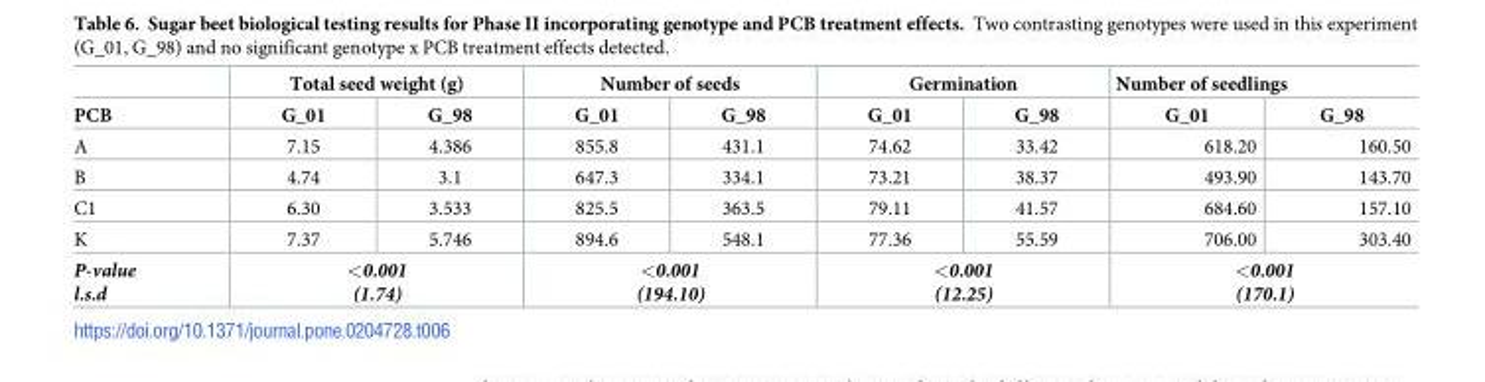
<table><thead><tr><td rowspan="2">PCB</td><td colspan="2">Total seed weight (g)</td><td colspan="2">Number of seeds</td><td colspan="2">Germination</td><td colspan="2">Number of seedlings</td></tr><tr><td>G_01</td><td>G_98</td><td>G_01</td><td>G_98</td><td>G_01</td><td>G_98</td><td>G_01</td><td>G_98</td></tr></thead><tbody><tr><td>A</td><td>7.15</td><td>4.386</td><td>855.8</td><td>431.1</td><td>74.62</td><td>33.42</td><td>618.20</td><td>160.50</td></tr><tr><td>B</td><td>4.74</td><td>3.1</td><td>647.3</td><td>334.1</td><td>73.21</td><td>38.37</td><td>493.90</td><td>143.70</td></tr><tr><td>C1</td><td>6.30</td><td>3.533</td><td>825.5</td><td>363.5</td><td>79.11</td><td>41.57</td><td>684.60</td><td>157.10</td></tr><tr><td>K</td><td>7.37</td><td>5.746</td><td>894.6</td><td>548.1</td><td>77.36</td><td>55.59</td><td>706.00</td><td>303.40</td></tr><tr><td>P-value l.s.d</td><td colspan="2">&lt;0.001 (1.74)</td><td colspan="2">&lt;0.001 (194.10)</td><td colspan="2">&lt;0.001 (12.25)</td><td colspan="2">&lt;0.001 (170.1)</td></tr></tbody></table>